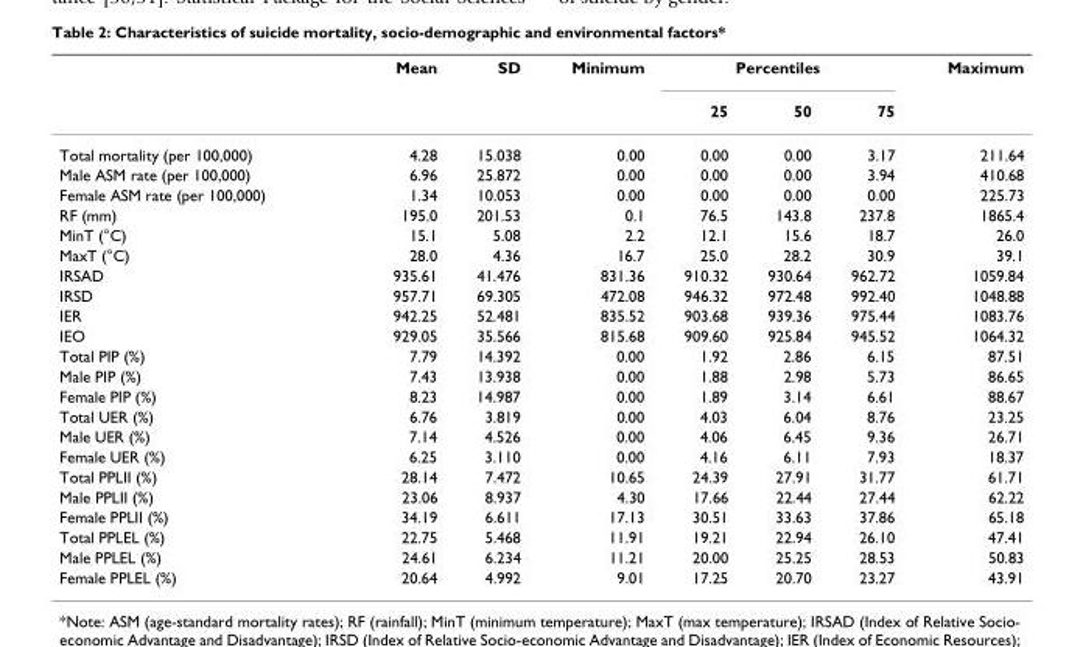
<table><thead><tr><td rowspan="2"></td><td rowspan="2">Mean</td><td rowspan="2">SD</td><td rowspan="2">Minimum</td><td colspan="3">Percentiles</td><td rowspan="2">Maximum</td></tr><tr><td>25</td><td>50</td><td>75</td></tr></thead><tbody><tr><td>Total mortality (per 100,000)</td><td>4.28</td><td>15.038</td><td>0.00</td><td>0.00</td><td>0.00</td><td>3.17</td><td>211.64</td></tr><tr><td>Male ASM rate (per 100,000)</td><td>6.96</td><td>25.872</td><td>0.00</td><td>0.00</td><td>0.00</td><td>3.94</td><td>410.68</td></tr><tr><td>Female ASM rate (per 100,000)</td><td>1.34</td><td>10.053</td><td>0.00</td><td>0.00</td><td>0.00</td><td>0.00</td><td>225.73</td></tr><tr><td>RF (mm)</td><td>195.0</td><td>201.53</td><td>0.1</td><td>76.5</td><td>143.8</td><td>237.8</td><td>1865.4</td></tr><tr><td>MinT (°C)</td><td>15.1</td><td>5.08</td><td>2.2</td><td>12.1</td><td>15.6</td><td>18.7</td><td>26.0</td></tr><tr><td>MaxT (°C)</td><td>28.0</td><td>4.36</td><td>16.7</td><td>25.0</td><td>28.2</td><td>30.9</td><td>39.1</td></tr><tr><td>IRSAD</td><td>935.61</td><td>41.476</td><td>831.36</td><td>910.32</td><td>930.64</td><td>962.72</td><td>1059.84</td></tr><tr><td>IRSD</td><td>957.71</td><td>69.305</td><td>472.08</td><td>946.32</td><td>972.48</td><td>992.40</td><td>1048.88</td></tr><tr><td>IER</td><td>942.25</td><td>52.481</td><td>835.52</td><td>903.68</td><td>939.36</td><td>975.44</td><td>1083.76</td></tr><tr><td>IEO</td><td>929.05</td><td>35.566</td><td>815.68</td><td>909.60</td><td>925.84</td><td>945.52</td><td>1064.32</td></tr><tr><td>Total PIP (%)</td><td>7.79</td><td>14.392</td><td>0.00</td><td>1.92</td><td>2.86</td><td>6.15</td><td>87.51</td></tr><tr><td>Male PIP (%)</td><td>7.43</td><td>13.938</td><td>0.00</td><td>1.88</td><td>2.98</td><td>5.73</td><td>86.65</td></tr><tr><td>Female PIP (%)</td><td>8.23</td><td>14.987</td><td>0.00</td><td>1.89</td><td>3.14</td><td>6.61</td><td>88.67</td></tr><tr><td>Total UER (%)</td><td>6.76</td><td>3.819</td><td>0.00</td><td>4.03</td><td>6.04</td><td>8.76</td><td>23.25</td></tr><tr><td>Male UER (%)</td><td>7.14</td><td>4.526</td><td>0.00</td><td>4.06</td><td>6.45</td><td>9.36</td><td>26.71</td></tr><tr><td>Female UER (%)</td><td>6.25</td><td>3.110</td><td>0.00</td><td>4.16</td><td>6.11</td><td>7.93</td><td>18.37</td></tr><tr><td>Total PPLII (%)</td><td>28.14</td><td>7.472</td><td>10.65</td><td>24.39</td><td>27.91</td><td>31.77</td><td>61.71</td></tr><tr><td>Male PPLII (%)</td><td>23.06</td><td>8.937</td><td>4.30</td><td>17.66</td><td>22.44</td><td>27.44</td><td>62.22</td></tr><tr><td>Female PPLII (%)</td><td>34.19</td><td>6.611</td><td>17.13</td><td>30.51</td><td>33.63</td><td>37.86</td><td>65.18</td></tr><tr><td>Total PPLEL (%)</td><td>22.75</td><td>5.468</td><td>11.91</td><td>19.21</td><td>22.94</td><td>26.10</td><td>47.41</td></tr><tr><td>Male PPLEL (%)</td><td>24.61</td><td>6.234</td><td>11.21</td><td>20.00</td><td>25.25</td><td>28.53</td><td>50.83</td></tr><tr><td>Female PPLEL (%)</td><td>20.64</td><td>4.992</td><td>9.01</td><td>17.25</td><td>20.70</td><td>23.27</td><td>43.91</td></tr></tbody></table>